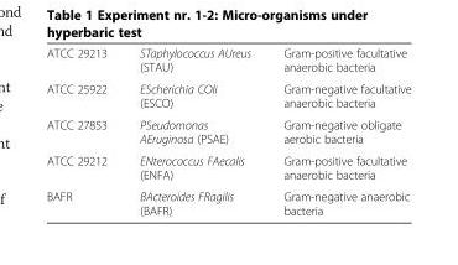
<table><tbody><tr><td>ATCC 29213</td><td>STaphylococcus AUreus (STAU)</td><td>Gram-positive facultative anaerobic bacteria</td></tr><tr><td>ATCC 25922</td><td>EScherichia COli (ESCO)</td><td>Gram-negative facultative anaerobic bacteria</td></tr><tr><td>ATCC 27853</td><td>PSeudomonas AEruginosa (PSAE)</td><td>Gram-negative obligate aerobic bacteria</td></tr><tr><td>ATCC 29212</td><td>ENterococcus FAecalis (ENFA)</td><td>Gram-positive facultative anaerobic bacteria</td></tr><tr><td>BAFR</td><td>BActeroides FRagilis (BAFR)</td><td>Gram-negative anaerobic bacteria</td></tr></tbody></table>